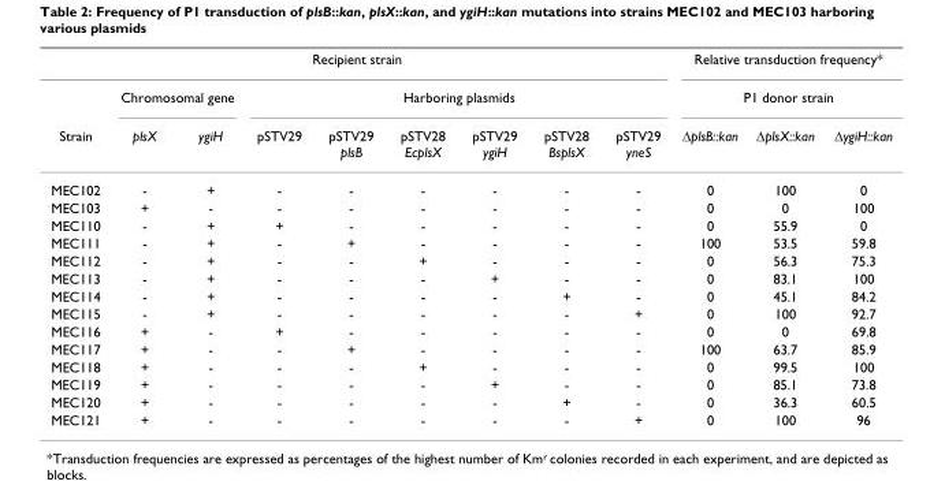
<table><thead><tr><td colspan="9">Recipient strain</td><td rowspan="2" colspan="3">Relative transduction frequency* P1 donor strain</td></tr><tr><td rowspan="2">Strain</td><td colspan="2">Chromosomal gene</td><td colspan="6">Harboring plasmids</td></tr><tr><td>plsX</td><td>ygiH</td><td>pSTV29</td><td>pSTV29 plsB</td><td>pSTV28 EcplsX</td><td>pSTV29 ygiH</td><td>pSTV28 BsplsX</td><td>pSTV29 yneS</td><td>ΔplsB::kan</td><td>ΔplsX::kan</td><td>ΔygiH::kan</td></tr></thead><tbody><tr><td>MEC102</td><td>-</td><td>+</td><td>-</td><td>-</td><td>-</td><td>-</td><td>-</td><td>-</td><td>0</td><td>100</td><td>0</td></tr><tr><td>MEC103</td><td>+</td><td>-</td><td>-</td><td>-</td><td>-</td><td>-</td><td>-</td><td>-</td><td>0</td><td>0</td><td>100</td></tr><tr><td>MEC110</td><td>-</td><td>+</td><td>+</td><td>-</td><td>-</td><td>-</td><td>-</td><td>-</td><td>0</td><td>55.9</td><td>0</td></tr><tr><td>MEC111</td><td>-</td><td>+</td><td>-</td><td>+</td><td>-</td><td>-</td><td>-</td><td>-</td><td>100</td><td>53.5</td><td>59.8</td></tr><tr><td>MEC112</td><td>-</td><td>+</td><td>-</td><td>-</td><td>+</td><td>-</td><td>-</td><td>-</td><td>0</td><td>56.3</td><td>75.3</td></tr><tr><td>MEC113</td><td>-</td><td>+</td><td>-</td><td>-</td><td>-</td><td>+</td><td>-</td><td>-</td><td>0</td><td>83.1</td><td>100</td></tr><tr><td>MEC114</td><td>-</td><td>+</td><td>-</td><td>-</td><td>-</td><td>-</td><td>+</td><td>-</td><td>0</td><td>45.1</td><td>84.2</td></tr><tr><td>MEC115</td><td>-</td><td>+</td><td>-</td><td>-</td><td>-</td><td>-</td><td>-</td><td>+</td><td>0</td><td>100</td><td>92.7</td></tr><tr><td>MEC116</td><td>+</td><td>-</td><td>+</td><td>-</td><td>-</td><td>-</td><td>-</td><td>-</td><td>0</td><td>0</td><td>69.8</td></tr><tr><td>MEC117</td><td>+</td><td>-</td><td>-</td><td>+</td><td>-</td><td>-</td><td>-</td><td>-</td><td>100</td><td>63.7</td><td>85.9</td></tr><tr><td>MEC118</td><td>+</td><td>-</td><td>-</td><td>-</td><td>+</td><td>-</td><td>-</td><td>-</td><td>0</td><td>99.5</td><td>100</td></tr><tr><td>MEC119</td><td>+</td><td>-</td><td>-</td><td>-</td><td>-</td><td>+</td><td>-</td><td>-</td><td>0</td><td>85.1</td><td>73.8</td></tr><tr><td>MEC120</td><td>+</td><td>-</td><td>-</td><td>-</td><td>-</td><td>-</td><td>+</td><td>-</td><td>0</td><td>36.3</td><td>60.5</td></tr><tr><td>MEC121</td><td>+</td><td>-</td><td>-</td><td>-</td><td>-</td><td>-</td><td>-</td><td>+</td><td>0</td><td>100</td><td>96</td></tr></tbody></table>